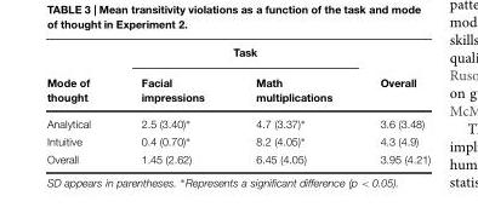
<table><thead><tr><td rowspan="2">Mode of thought</td><td colspan="2">Task</td><td rowspan="2">Overall</td></tr><tr><td>Facial impressions</td><td>Math multiplications</td></tr></thead><tbody><tr><td>Analytical</td><td>2.5 (3.40)∗</td><td>4.7 (3.37)∗</td><td>3.6 (3.48)</td></tr><tr><td>Intuitive</td><td>0.4 (0.70)∗</td><td>8.2 (4.05)∗</td><td>4.3 (4.9)</td></tr><tr><td>Overall</td><td>1.45 (2.62)</td><td>6.45 (4.05)</td><td>3.95 (4.21)</td></tr></tbody></table>